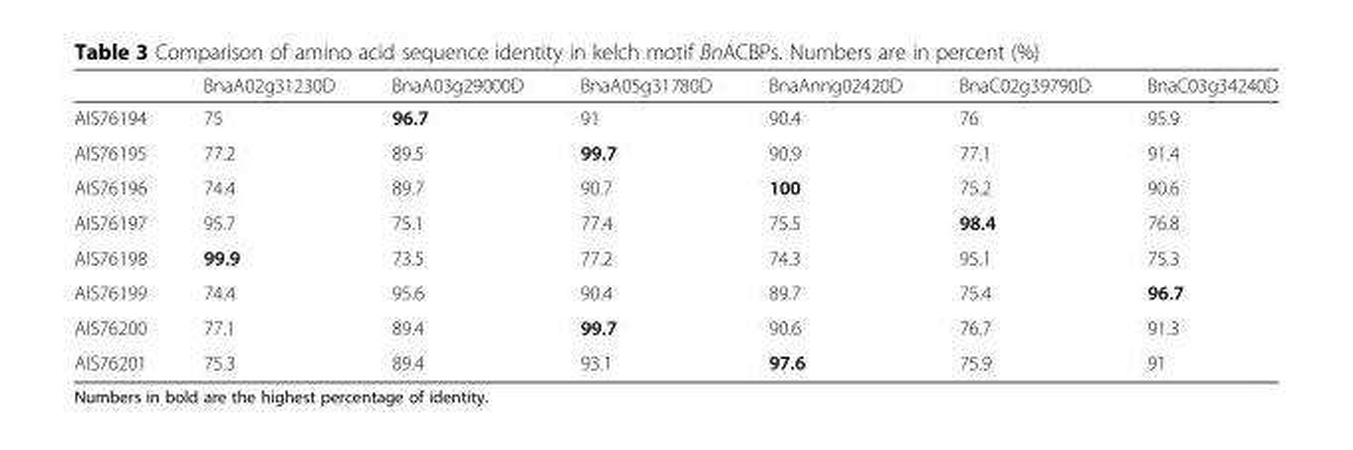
<table><thead><tr><td></td><td>BnaA02g31230D</td><td>BnaA03g29000D</td><td>BnaA05g31780D</td><td>BnaAnng02420D</td><td>BnaC02g39790D</td><td>BnaC03g34240D</td></tr></thead><tbody><tr><td>AIS76194</td><td>75</td><td>96.7</td><td>91</td><td>90.4</td><td>76</td><td>95.9</td></tr><tr><td>AIS76195</td><td>77.2</td><td>89.5</td><td>99.7</td><td>90.9</td><td>77.1</td><td>91.4</td></tr><tr><td>AIS76196</td><td>74.4</td><td>89.7</td><td>90.7</td><td>100</td><td>75.2</td><td>90.6</td></tr><tr><td>AIS76197</td><td>95.7</td><td>75.1</td><td>77.4</td><td>75.5</td><td>98.4</td><td>76.8</td></tr><tr><td>AIS76198</td><td>99.9</td><td>73.5</td><td>77.2</td><td>74.3</td><td>95.1</td><td>75.3</td></tr><tr><td>AIS76199</td><td>74.4</td><td>95.6</td><td>90.4</td><td>89.7</td><td>75.4</td><td>96.7</td></tr><tr><td>AIS76200</td><td>77.1</td><td>89.4</td><td>99.7</td><td>90.6</td><td>76.7</td><td>91.3</td></tr><tr><td>AIS76201</td><td>75.3</td><td>89.4</td><td>93.1</td><td>97.6</td><td>75.9</td><td>91</td></tr></tbody></table>